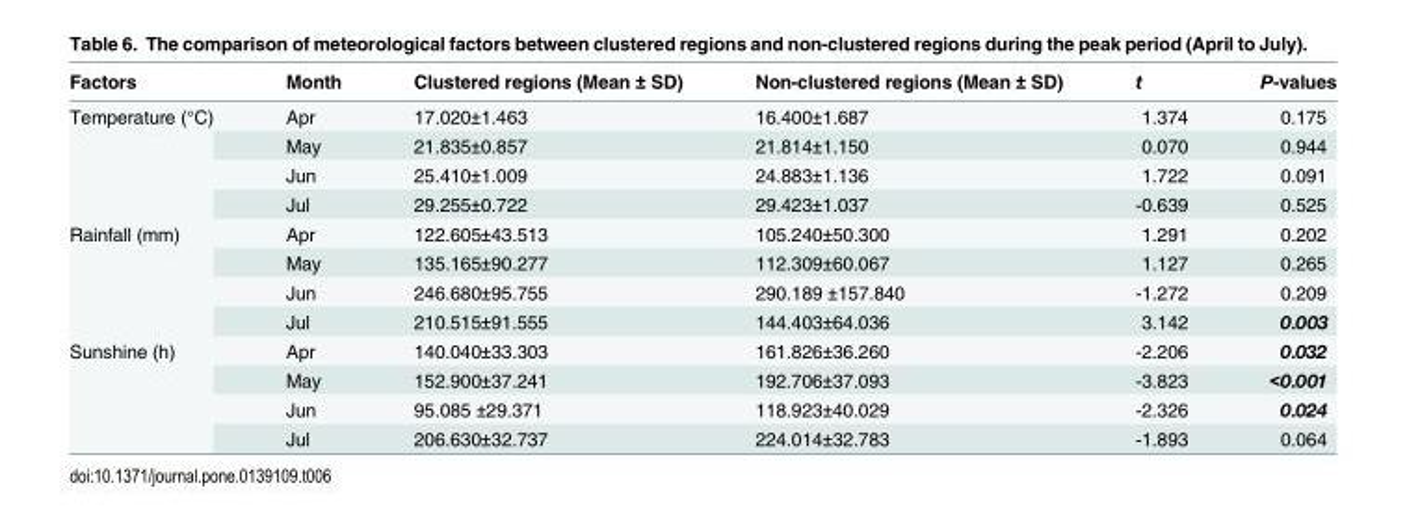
<table><thead><tr><td>Factors</td><td>Month</td><td>Clustered regions (Mean ± SD)</td><td>Non-clustered regions (Mean ± SD)</td><td>t</td><td>P-values</td></tr></thead><tbody><tr><td rowspan="4">Temperature (°C)</td><td>Apr</td><td>17.020±1.463</td><td>16.400±1.687</td><td>1.374</td><td>0.175</td></tr><tr><td>May</td><td>21.835±0.857</td><td>21.814±1.150</td><td>0.070</td><td>0.944</td></tr><tr><td>Jun</td><td>25.410±1.009</td><td>24.883±1.136</td><td>1.722</td><td>0.091</td></tr><tr><td>Jul</td><td>29.255±0.722</td><td>29.423±1.037</td><td>-0.639</td><td>0.525</td></tr><tr><td rowspan="4">Rainfall (mm)</td><td>Apr</td><td>122.605±43.513</td><td>105.240±50.300</td><td>1.291</td><td>0.202</td></tr><tr><td>May</td><td>135.165±90.277</td><td>112.309±60.067</td><td>1.127</td><td>0.265</td></tr><tr><td>Jun</td><td>246.680±95.755</td><td>290.189 ±157.840</td><td>-1.272</td><td>0.209</td></tr><tr><td>Jul</td><td>210.515±91.555</td><td>144.403±64.036</td><td>3.142</td><td>0.003</td></tr><tr><td rowspan="4">Sunshine (h)</td><td>Apr</td><td>140.040±33.303</td><td>161.826±36.260</td><td>-2.206</td><td>0.032</td></tr><tr><td>May</td><td>152.900±37.241</td><td>192.706±37.093</td><td>-3.823</td><td>&lt;0.001</td></tr><tr><td>Jun</td><td>95.085 ±29.371</td><td>118.923±40.029</td><td>-2.326</td><td>0.024</td></tr><tr><td>Jul</td><td>206.630±32.737</td><td>224.014±32.783</td><td>-1.893</td><td>0.064</td></tr></tbody></table>